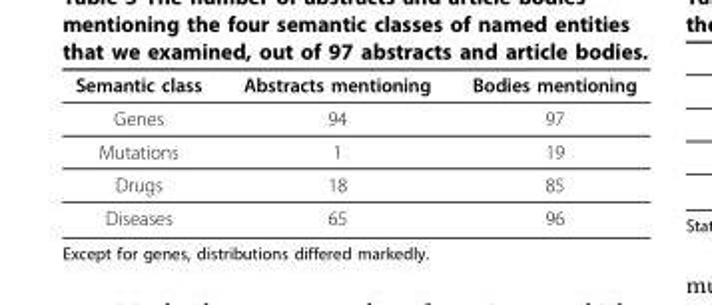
<table><thead><tr><td>Semantic class</td><td>Abstracts mentioning</td><td>Bodies mentioning</td></tr></thead><tbody><tr><td>Genes</td><td>94</td><td>97</td></tr><tr><td>Mutations</td><td>1</td><td>19</td></tr><tr><td>Drugs</td><td>18</td><td>85</td></tr><tr><td>Diseases</td><td>65</td><td>96</td></tr></tbody></table>